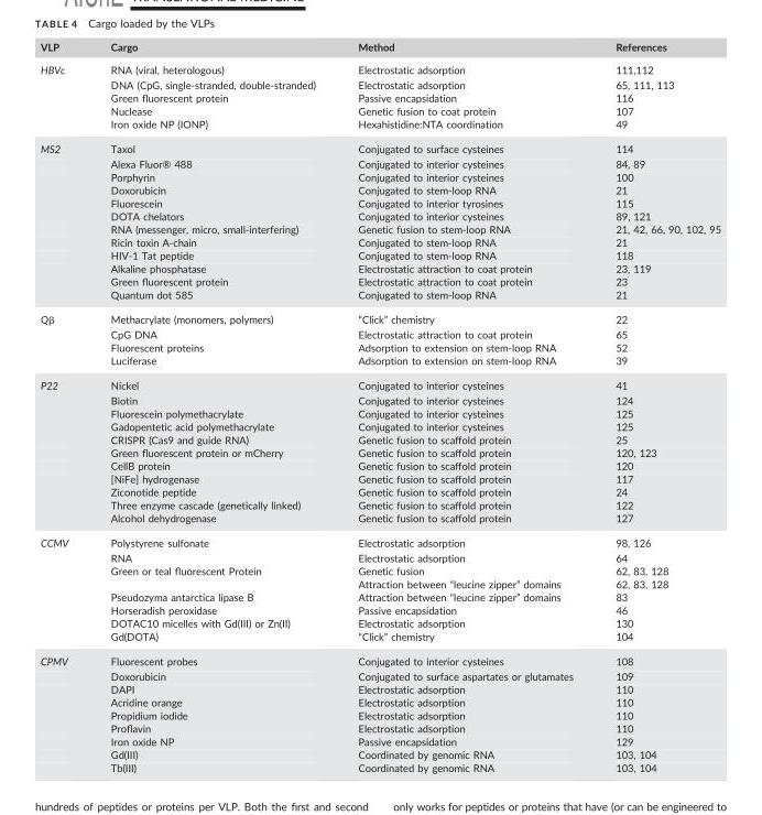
<table><thead><tr><td>VLP</td><td>Cargo</td><td>Method</td><td>References</td></tr></thead><tbody><tr><td rowspan="5">HBVc</td><td>RNA (viral, heterologous)</td><td>Electrostatic adsorption</td><td>111,112</td></tr><tr><td>DNA (CpG, single-stranded, double-stranded)</td><td>Electrostatic adsorption</td><td>65, 111, 113</td></tr><tr><td>Green fluorescent protein</td><td>Passive encapsidation</td><td>116</td></tr><tr><td>Nuclease</td><td>Genetic fusion to coat protein</td><td>107</td></tr><tr><td>Iron oxide NP (IONP)</td><td>Hexahistidine:NTA coordination</td><td>49</td></tr><tr><td rowspan="12">MS2</td><td>Taxol</td><td>Conjugated to surface cysteines</td><td>114</td></tr><tr><td>Alexa Fluor® 488</td><td>Conjugated to interior cysteines</td><td>84, 89</td></tr><tr><td>Porphyrin</td><td>Conjugated to interior cysteines</td><td>100</td></tr><tr><td>Doxorubicin</td><td>Conjugated to stem-loop RNA</td><td>21</td></tr><tr><td>Fluorescein</td><td>Conjugated to interior tyrosines</td><td>115</td></tr><tr><td>DOTA chelators</td><td>Conjugated to interior cysteines</td><td>89, 121</td></tr><tr><td>RNA (messenger, micro, small-interfering)</td><td>Genetic fusion to stem-loop RNA</td><td>21, 42, 66, 90, 102, 95</td></tr><tr><td>Ricin toxin A-chain</td><td>Conjugated to stem-loop RNA</td><td>21</td></tr><tr><td>HIV-1 Tat peptide</td><td>Conjugated to stem-loop RNA</td><td>118</td></tr><tr><td>Alkaline phosphatase</td><td>Electrostatic attraction to coat protein</td><td>23, 119</td></tr><tr><td>Green fluorescent protein</td><td>Electrostatic attraction to coat protein</td><td>23</td></tr><tr><td>Quantum dot 585</td><td>Conjugated to stem-loop RNA</td><td>21</td></tr><tr><td rowspan="4">Qβ</td><td>Methacrylate (monomers, polymers)</td><td>“Click” chemistry</td><td>22</td></tr><tr><td>CpG DNA</td><td>Electrostatic attraction to coat protein</td><td>65</td></tr><tr><td>Fluorescent proteins</td><td>Adsorption to extension on stem-loop RNA</td><td>52</td></tr><tr><td>Luciferase</td><td>Adsorption to extension on stem-loop RNA</td><td>39</td></tr><tr><td rowspan="11">P22</td><td>Nickel</td><td>Conjugated to interior cysteines</td><td>41</td></tr><tr><td>Biotin</td><td>Conjugated to interior cysteines</td><td>124</td></tr><tr><td>Fluorescein polymethacrylate</td><td>Conjugated to interior cysteines</td><td>125</td></tr><tr><td>Gadopentetic acid polymethacrylate</td><td>Conjugated to interior cysteines</td><td>125</td></tr><tr><td>CRISPR (Cas9 and guide RNA)</td><td>Genetic fusion to scaffold protein</td><td>25</td></tr><tr><td>Green fluorescent protein or mCherry</td><td>Genetic fusion to scaffold protein</td><td>120, 123</td></tr><tr><td>CellB protein</td><td>Genetic fusion to scaffold protein</td><td>120</td></tr><tr><td>[NiFe] hydrogenase</td><td>Genetic fusion to scaffold protein</td><td>117</td></tr><tr><td>Ziconotide peptide</td><td>Genetic fusion to scaffold protein</td><td>24</td></tr><tr><td>Three enzyme cascade (genetically linked)</td><td>Genetic fusion to scaffold protein</td><td>122</td></tr><tr><td>Alcohol dehydrogenase</td><td>Genetic fusion to scaffold protein</td><td>127</td></tr><tr><td rowspan="8">CCMV</td><td>Polystyrene sulfonate</td><td>Electrostatic adsorption</td><td>98, 126</td></tr><tr><td>RNA</td><td>Electrostatic adsorption</td><td>64</td></tr><tr><td>Green or teal fluorescent Protein</td><td>Genetic fusion</td><td>62, 83, 128</td></tr><tr><td></td><td>Attraction between “leucine zipper” domains</td><td>62, 83, 128</td></tr><tr><td>Pseudozyma antarctica lipase B</td><td>Attraction between “leucine zipper” domains</td><td>83</td></tr><tr><td>Horseradish peroxidase</td><td>Passive encapsidation</td><td>46</td></tr><tr><td>DOTAC10 micelles with Gd(III) or Zn(II)</td><td>Electrostatic adsorption</td><td>130</td></tr><tr><td>Gd(DOTA)</td><td>“Click” chemistry</td><td>104</td></tr><tr><td rowspan="9">CPMV</td><td>Fluorescent probes</td><td>Conjugated to interior cysteines</td><td>108</td></tr><tr><td>Doxorubicin</td><td>Conjugated to surface aspartates or glutamates</td><td>109</td></tr><tr><td>DAPI</td><td>Electrostatic adsorption</td><td>110</td></tr><tr><td>Acridine orange</td><td>Electrostatic adsorption</td><td>110</td></tr><tr><td>Propidium iodide</td><td>Electrostatic adsorption</td><td>110</td></tr><tr><td>Proflavin</td><td>Electrostatic adsorption</td><td>110</td></tr><tr><td>Iron oxide NP</td><td>Passive encapsidation</td><td>129</td></tr><tr><td>Gd(III)</td><td>Coordinated by genomic RNA</td><td>103, 104</td></tr><tr><td>Tb(III)</td><td>Coordinated by genomic RNA</td><td>103, 104</td></tr></tbody></table>